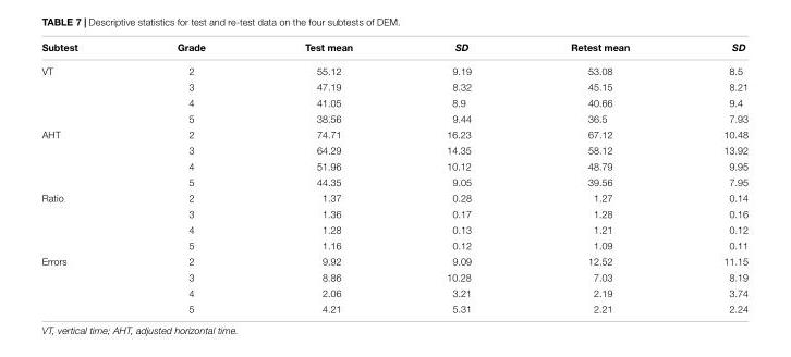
<table><thead><tr><td>Subtest</td><td>Grade</td><td>Test mean</td><td>SD</td><td>Retest mean</td><td>SD</td></tr></thead><tbody><tr><td rowspan="4">VT</td><td>2</td><td>55.12</td><td>9.19</td><td>53.08</td><td>8.5</td></tr><tr><td>3</td><td>47.19</td><td>8.32</td><td>45.15</td><td>8.21</td></tr><tr><td>4</td><td>41.05</td><td>8.9</td><td>40.66</td><td>9.4</td></tr><tr><td>5</td><td>38.56</td><td>9.44</td><td>36.5</td><td>7.93</td></tr><tr><td rowspan="4">AHT</td><td>2</td><td>74.71</td><td>16.23</td><td>67.12</td><td>10.48</td></tr><tr><td>3</td><td>64.29</td><td>14.35</td><td>58.12</td><td>13.92</td></tr><tr><td>4</td><td>51.96</td><td>10.12</td><td>48.79</td><td>9.95</td></tr><tr><td>5</td><td>44.35</td><td>9.05</td><td>39.56</td><td>7.95</td></tr><tr><td rowspan="4">Ratio</td><td>2</td><td>1.37</td><td>0.28</td><td>1.27</td><td>0.14</td></tr><tr><td>3</td><td>1.36</td><td>0.17</td><td>1.28</td><td>0.16</td></tr><tr><td>4</td><td>1.28</td><td>0.13</td><td>1.21</td><td>0.12</td></tr><tr><td>5</td><td>1.16</td><td>0.12</td><td>1.09</td><td>0.11</td></tr><tr><td rowspan="4">Errors</td><td>2</td><td>9.92</td><td>9.09</td><td>12.52</td><td>11.15</td></tr><tr><td>3</td><td>8.86</td><td>10.28</td><td>7.03</td><td>8.19</td></tr><tr><td>4</td><td>2.06</td><td>3.21</td><td>2.19</td><td>3.74</td></tr><tr><td>5</td><td>4.21</td><td>5.31</td><td>2.21</td><td>2.24</td></tr></tbody></table>